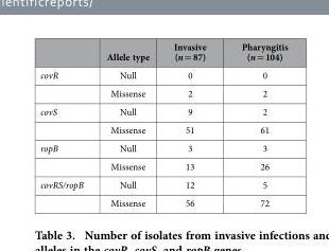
<table><thead><tr><td></td><td>Allele type</td><td>Invasive (n = 87)</td><td>Pharyngitis (n = 104)</td></tr></thead><tbody><tr><td rowspan="2">covR</td><td>Null</td><td>0</td><td>0</td></tr><tr><td>Missense</td><td>2</td><td>2</td></tr><tr><td rowspan="2">covS</td><td>Null</td><td>9</td><td>2</td></tr><tr><td>Missense</td><td>51</td><td>61</td></tr><tr><td rowspan="2">ropB</td><td>Null</td><td>3</td><td>3</td></tr><tr><td>Missense</td><td>13</td><td>26</td></tr><tr><td rowspan="2">covRS/ropB</td><td>Null</td><td>12</td><td>5</td></tr><tr><td>Missense</td><td>56</td><td>72</td></tr></tbody></table>